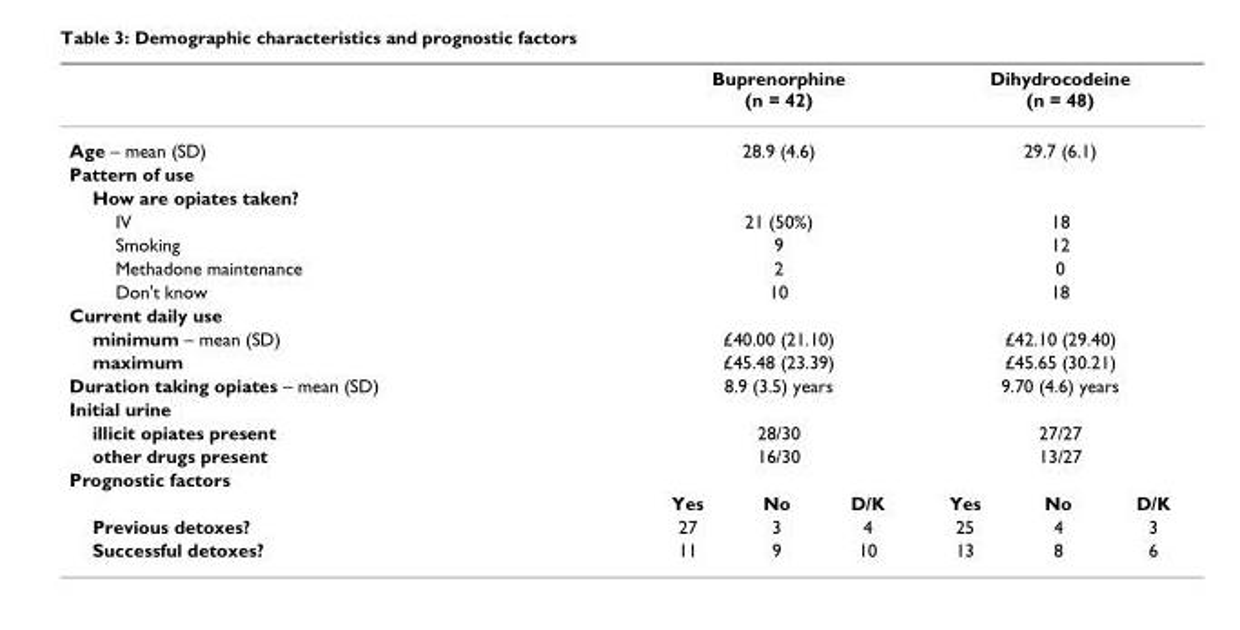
<table><thead><tr><td></td><td colspan="3">Buprenorphine (n = 42)</td><td colspan="3">Dihydrocodeine (n = 48)</td></tr></thead><tbody><tr><td>Age – mean (SD)</td><td colspan="3">28.9 (4.6)</td><td colspan="3">29.7 (6.1)</td></tr><tr><td colspan="7">Pattern of use</td></tr><tr><td colspan="7">How are opiates taken?</td></tr><tr><td>IV</td><td colspan="3">21 (50%)</td><td colspan="3">18</td></tr><tr><td>Smoking</td><td colspan="3">9</td><td colspan="3">12</td></tr><tr><td>Methadone maintenance</td><td colspan="3">2</td><td colspan="3">0</td></tr><tr><td>Don&#x27;t know</td><td colspan="3">10</td><td colspan="3">18</td></tr><tr><td colspan="7">Current daily use</td></tr><tr><td>minimum – mean (SD)</td><td colspan="3">£40.00 (21.10)</td><td colspan="3">£42.10 (29.40)</td></tr><tr><td>maximum</td><td colspan="3">£45.48 (23.39)</td><td colspan="3">£45.65 (30.21)</td></tr><tr><td>Duration taking opiates – mean (SD)</td><td colspan="3">8.9 (3.5) years</td><td colspan="3">9.70 (4.6) years</td></tr><tr><td colspan="7">Initial urine</td></tr><tr><td>illicit opiates present</td><td colspan="3">28/30</td><td colspan="3">27/27</td></tr><tr><td>other drugs present</td><td colspan="3">16/30</td><td colspan="3">13/27</td></tr><tr><td colspan="7">Prognostic factors</td></tr><tr><td></td><td>Yes</td><td>No</td><td>D/K</td><td>Yes</td><td>No</td><td>D/K</td></tr><tr><td>Previous detoxes?</td><td>27</td><td>3</td><td>4</td><td>25</td><td>4</td><td>3</td></tr><tr><td>Successful detoxes?</td><td>11</td><td>9</td><td>10</td><td>13</td><td>8</td><td>6</td></tr></tbody></table>